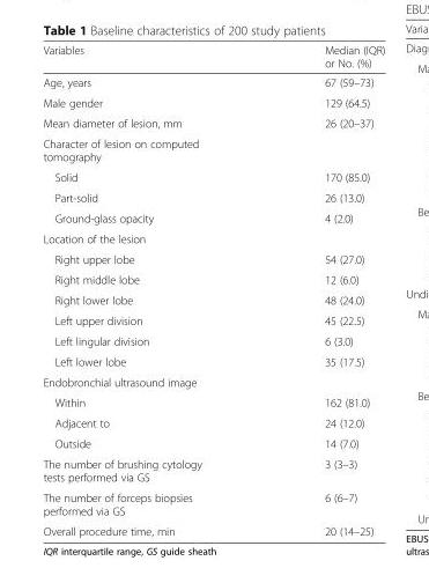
<table><thead><tr><td>Variables</td><td>Median (IQR) or No. (%)</td></tr></thead><tbody><tr><td>Age, years</td><td>67 (59–73)</td></tr><tr><td>Male gender</td><td>129 (64.5)</td></tr><tr><td>Mean diameter of lesion, mm</td><td>26 (20–37)</td></tr><tr><td colspan="2">Character of lesion on computed tomography</td></tr><tr><td>Solid</td><td>170 (85.0)</td></tr><tr><td>Part-solid</td><td>26 (13.0)</td></tr><tr><td>Ground-glass opacity</td><td>4 (2.0)</td></tr><tr><td colspan="2">Location of the lesion</td></tr><tr><td>Right upper lobe</td><td>54 (27.0)</td></tr><tr><td>Right middle lobe</td><td>12 (6.0)</td></tr><tr><td>Right lower lobe</td><td>48 (24.0)</td></tr><tr><td>Left upper division</td><td>45 (22.5)</td></tr><tr><td>Left lingular division</td><td>6 (3.0)</td></tr><tr><td>Left lower lobe</td><td>35 (17.5)</td></tr><tr><td colspan="2">Endobronchial ultrasound image</td></tr><tr><td>Within</td><td>162 (81.0)</td></tr><tr><td>Adjacent to</td><td>24 (12.0)</td></tr><tr><td>Outside</td><td>14 (7.0)</td></tr><tr><td>The number of brushing cytology tests performed via GS</td><td>3 (3–3)</td></tr><tr><td>The number of forceps biopsies performed via GS</td><td>6 (6–7)</td></tr><tr><td>Overall procedure time, min</td><td>20 (14–25)</td></tr></tbody></table>